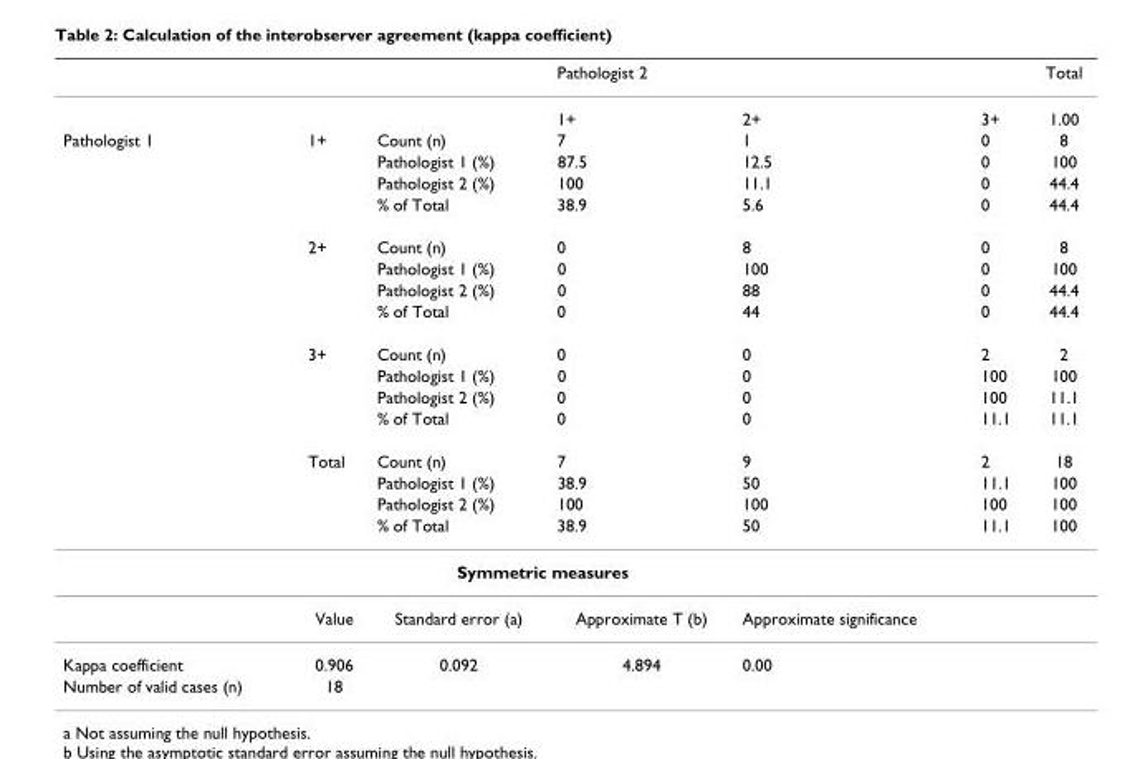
<table><thead><tr><td rowspan="2"></td><td rowspan="2"></td><td rowspan="2"></td><td colspan="3">Pathologist 2</td><td rowspan="2">Total 1.00</td></tr><tr><td>1+</td><td>2+</td><td>3+</td></tr></thead><tbody><tr><td rowspan="16">Pathologist 1</td><td>1+</td><td>Count (n)</td><td>7</td><td>1</td><td>0</td><td>8</td></tr><tr><td></td><td>Pathologist 1 (%)</td><td>87.5</td><td>12.5</td><td>0</td><td>100</td></tr><tr><td></td><td>Pathologist 2 (%)</td><td>100</td><td>11.1</td><td>0</td><td>44.4</td></tr><tr><td></td><td>% of Total</td><td>38.9</td><td>5.6</td><td>0</td><td>44.4</td></tr><tr><td>2+</td><td>Count (n)</td><td>0</td><td>8</td><td>0</td><td>8</td></tr><tr><td></td><td>Pathologist 1 (%)</td><td>0</td><td>100</td><td>0</td><td>100</td></tr><tr><td></td><td>Pathologist 2 (%)</td><td>0</td><td>88</td><td>0</td><td>44.4</td></tr><tr><td></td><td>% of Total</td><td>0</td><td>44</td><td>0</td><td>44.4</td></tr><tr><td>3+</td><td>Count (n)</td><td>0</td><td>0</td><td>2</td><td>2</td></tr><tr><td></td><td>Pathologist 1 (%)</td><td>0</td><td>0</td><td>100</td><td>100</td></tr><tr><td></td><td>Pathologist 2 (%)</td><td>0</td><td>0</td><td>100</td><td>11.1</td></tr><tr><td></td><td>% of Total</td><td>0</td><td>0</td><td>11.1</td><td>11.1</td></tr><tr><td>Total</td><td>Count (n)</td><td>7</td><td>9</td><td>2</td><td>18</td></tr><tr><td></td><td>Pathologist 1 (%)</td><td>38.9</td><td>50</td><td>11.1</td><td>100</td></tr><tr><td></td><td>Pathologist 2 (%)</td><td>100</td><td>100</td><td>100</td><td>100</td></tr><tr><td></td><td>% of Total</td><td>38.9</td><td>50</td><td>11.1</td><td>100</td></tr><tr><td colspan="7">Symmetric measures</td></tr><tr><td></td><td>Value</td><td>Standard error (a)</td><td>Approximate T (b)</td><td>Approximate significance</td><td></td><td></td></tr><tr><td>Kappa coefficient</td><td>0.906</td><td>0.092</td><td>4.894</td><td>0.00</td><td></td><td></td></tr><tr><td>Number of valid cases (n)</td><td>18</td><td></td><td></td><td></td><td></td><td></td></tr></tbody></table>